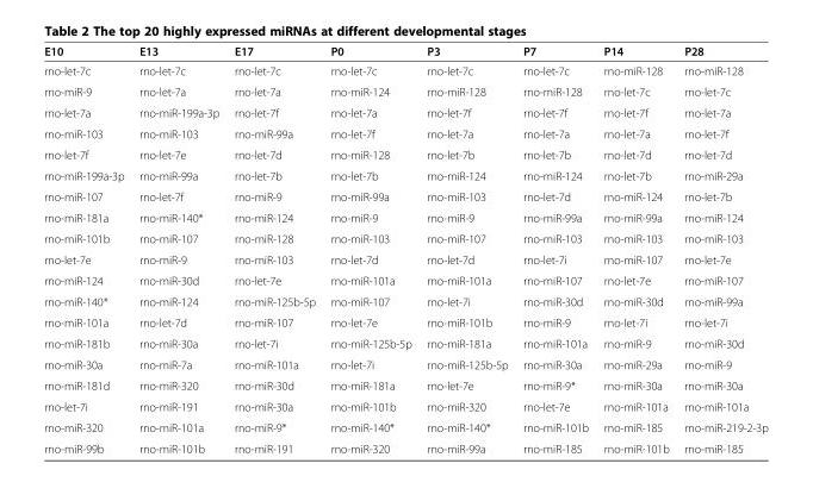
<table><thead><tr><td>E10</td><td>E13</td><td>E17</td><td>P0</td><td>P3</td><td>P7</td><td>P14</td><td>P28</td></tr></thead><tbody><tr><td>rno-let-7c</td><td>rno-let-7c</td><td>rno-let-7c</td><td>rno-let-7c</td><td>rno-let-7c</td><td>rno-let-7c</td><td>rno-miR-128</td><td>rno-miR-128</td></tr><tr><td>rno-miR-9</td><td>rno-let-7a</td><td>rno-let-7a</td><td>rno-miR-124</td><td>rno-miR-128</td><td>rno-miR-128</td><td>rno-let-7c</td><td>rno-let-7c</td></tr><tr><td>rno-let-7a</td><td>rno-miR-199a-3p</td><td>rno-let-7f</td><td>rno-let-7a</td><td>rno-let-7f</td><td>rno-let-7f</td><td>rno-let-7f</td><td>rno-let-7a</td></tr><tr><td>rno-miR-103</td><td>rno-miR-103</td><td>rno-miR-99a</td><td>rno-let-7f</td><td>rno-let-7a</td><td>rno-let-7a</td><td>rno-let-7a</td><td>rno-let-7f</td></tr><tr><td>rno-let-7f</td><td>rno-let-7e</td><td>rno-let-7d</td><td>rno-miR-128</td><td>rno-let-7b</td><td>rno-let-7b</td><td>rno-let-7d</td><td>rno-let-7d</td></tr><tr><td>rno-miR-199a-3p</td><td>rno-miR-99a</td><td>rno-let-7b</td><td>rno-let-7b</td><td>rno-miR-124</td><td>rno-miR-124</td><td>rno-let-7b</td><td>rno-miR-29a</td></tr><tr><td>rno-miR-107</td><td>rno-let-7f</td><td>rno-miR-9</td><td>rno-miR-99a</td><td>rno-miR-103</td><td>rno-let-7d</td><td>rno-miR-124</td><td>rno-let-7b</td></tr><tr><td>rno-miR-181a</td><td>rno-miR-140*</td><td>rno-miR-124</td><td>rno-miR-9</td><td>rno-miR-9</td><td>rno-miR-99a</td><td>rno-miR-99a</td><td>rno-miR-124</td></tr><tr><td>rno-miR-101b</td><td>rno-miR-107</td><td>rno-miR-128</td><td>rno-miR-103</td><td>rno-miR-107</td><td>rno-miR-103</td><td>rno-miR-103</td><td>rno-miR-103</td></tr><tr><td>rno-let-7e</td><td>rno-miR-9</td><td>rno-miR-103</td><td>rno-let-7d</td><td>rno-let-7d</td><td>rno-let-7i</td><td>rno-miR-107</td><td>rno-let-7e</td></tr><tr><td>rno-miR-124</td><td>rno-miR-30d</td><td>rno-let-7e</td><td>rno-miR-101a</td><td>rno-miR-101a</td><td>rno-miR-107</td><td>rno-let-7e</td><td>rno-miR-107</td></tr><tr><td>rno-miR-140*</td><td>rno-miR-124</td><td>rno-miR-125b-5p</td><td>rno-miR-107</td><td>rno-let-7i</td><td>rno-miR-30d</td><td>rno-miR-30d</td><td>rno-miR-99a</td></tr><tr><td>rno-miR-101a</td><td>rno-let-7d</td><td>rno-miR-107</td><td>rno-let-7e</td><td>rno-miR-101b</td><td>rno-miR-9</td><td>rno-let-7i</td><td>rno-let-7i</td></tr><tr><td>rno-miR-181b</td><td>rno-miR-30a</td><td>rno-let-7i</td><td>rno-miR-125b-5p</td><td>rno-miR-181a</td><td>rno-miR-101a</td><td>rno-miR-9</td><td>rno-miR-30d</td></tr><tr><td>rno-miR-30a</td><td>rno-miR-7a</td><td>rno-miR-101a</td><td>rno-let-7i</td><td>rno-miR-125b-5p</td><td>rno-miR-30a</td><td>rno-miR-29a</td><td>rno-miR-9</td></tr><tr><td>rno-miR-181d</td><td>rno-miR-320</td><td>rno-miR-30d</td><td>rno-miR-181a</td><td>rno-let-7e</td><td>rno-miR-9*</td><td>rno-miR-30a</td><td>rno-miR-30a</td></tr><tr><td>rno-let-7i</td><td>rno-miR-191</td><td>rno-miR-30a</td><td>rno-miR-101b</td><td>rno-miR-320</td><td>rno-let-7e</td><td>rno-miR-101a</td><td>rno-miR-101a</td></tr><tr><td>rno-miR-320</td><td>rno-miR-101a</td><td>rno-miR-9*</td><td>rno-miR-140*</td><td>rno-miR-140*</td><td>rno-miR-101b</td><td>rno-miR-185</td><td>rno-miR-219-2-3p</td></tr><tr><td>rno-miR-99b</td><td>rno-miR-101b</td><td>rno-miR-191</td><td>rno-miR-320</td><td>rno-miR-99a</td><td>rno-miR-185</td><td>rno-miR-101b</td><td>rno-miR-185</td></tr></tbody></table>